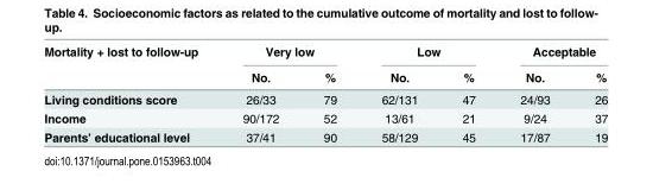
<table><thead><tr><td rowspan="2">Mortality + lost to follow-up</td><td colspan="2">Very low</td><td colspan="2">Low</td><td colspan="2">Acceptable</td></tr><tr><td>No.</td><td>%</td><td>No.</td><td>%</td><td>No.</td><td>%</td></tr></thead><tbody><tr><td>Living conditions score</td><td>26/33</td><td>79</td><td>62/131</td><td>47</td><td>24/93</td><td>26</td></tr><tr><td>Income</td><td>90/172</td><td>52</td><td>13/61</td><td>21</td><td>9/24</td><td>37</td></tr><tr><td>Parents’ educational level</td><td>37/41</td><td>90</td><td>58/129</td><td>45</td><td>17/87</td><td>19</td></tr></tbody></table>